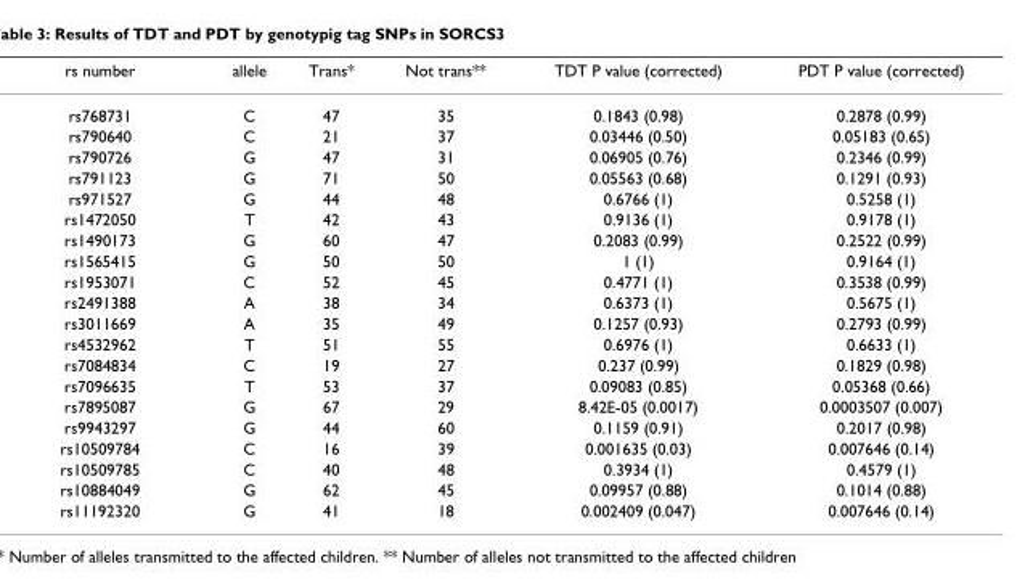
<table><thead><tr><td>rs number</td><td>allele</td><td>Trans*</td><td>Not trans**</td><td>TDT P value (corrected)</td><td>PDT P value (corrected)</td></tr></thead><tbody><tr><td>rs768731</td><td>C</td><td>47</td><td>35</td><td>0.1843 (0.98)</td><td>0.2878 (0.99)</td></tr><tr><td>rs790640</td><td>C</td><td>21</td><td>37</td><td>0.03446 (0.50)</td><td>0.05183 (0.65)</td></tr><tr><td>rs790726</td><td>G</td><td>47</td><td>31</td><td>0.06905 (0.76)</td><td>0.2346 (0.99)</td></tr><tr><td>rs791123</td><td>G</td><td>71</td><td>50</td><td>0.05563 (0.68)</td><td>0.1291 (0.93)</td></tr><tr><td>rs971527</td><td>G</td><td>44</td><td>48</td><td>0.6766 (1)</td><td>0.5258 (1)</td></tr><tr><td>rs1472050</td><td>T</td><td>42</td><td>43</td><td>0.9136 (1)</td><td>0.9178 (1)</td></tr><tr><td>rs1490173</td><td>G</td><td>60</td><td>47</td><td>0.2083 (0.99)</td><td>0.2522 (0.99)</td></tr><tr><td>rs1565415</td><td>G</td><td>50</td><td>50</td><td>1 (1)</td><td>0.9164 (1)</td></tr><tr><td>rs1953071</td><td>C</td><td>52</td><td>45</td><td>0.4771 (1)</td><td>0.3538 (0.99)</td></tr><tr><td>rs2491388</td><td>A</td><td>38</td><td>34</td><td>0.6373 (1)</td><td>0.5675 (1)</td></tr><tr><td>rs3011669</td><td>A</td><td>35</td><td>49</td><td>0.1257 (0.93)</td><td>0.2793 (0.99)</td></tr><tr><td>rs4532962</td><td>T</td><td>51</td><td>55</td><td>0.6976 (1)</td><td>0.6633 (1)</td></tr><tr><td>rs7084834</td><td>C</td><td>19</td><td>27</td><td>0.237 (0.99)</td><td>0.1829 (0.98)</td></tr><tr><td>rs7096635</td><td>T</td><td>53</td><td>37</td><td>0.09083 (0.85)</td><td>0.05368 (0.66)</td></tr><tr><td>rs7895087</td><td>G</td><td>67</td><td>29</td><td>8.42E-05 (0.0017)</td><td>0.0003507 (0.007)</td></tr><tr><td>rs9943297</td><td>G</td><td>44</td><td>60</td><td>0.1159 (0.91)</td><td>0.2017 (0.98)</td></tr><tr><td>rs10509784</td><td>C</td><td>16</td><td>39</td><td>0.001635 (0.03)</td><td>0.007646 (0.14)</td></tr><tr><td>rs10509785</td><td>C</td><td>40</td><td>48</td><td>0.3934 (1)</td><td>0.4579 (1)</td></tr><tr><td>rs10884049</td><td>G</td><td>62</td><td>45</td><td>0.09957 (0.88)</td><td>0.1014 (0.88)</td></tr><tr><td>rs11192320</td><td>G</td><td>41</td><td>18</td><td>0.002409 (0.047)</td><td>0.007646 (0.14)</td></tr></tbody></table>